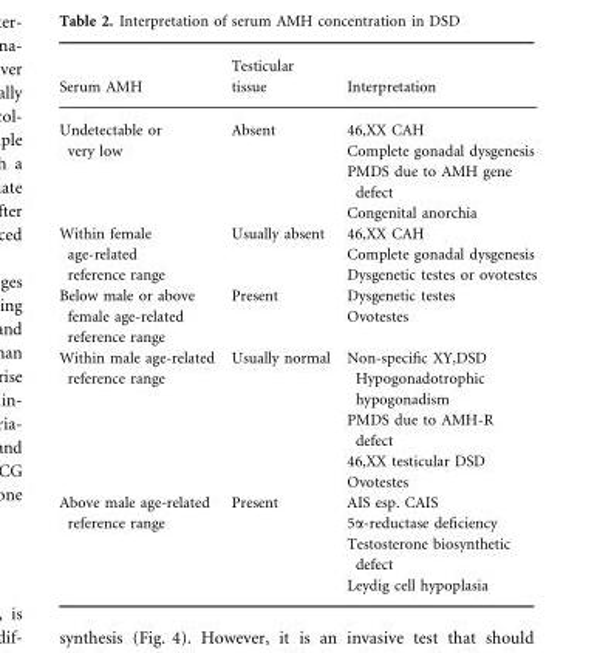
<table><thead><tr><td>Serum AMH</td><td>Testicular tissue</td><td>Interpretation</td></tr></thead><tbody><tr><td rowspan="4">Undetectable or very low</td><td rowspan="4">Absent</td><td>46,XX CAH</td></tr><tr><td>Complete gonadal dysgenesis</td></tr><tr><td>PMDS due to AMH gene defect</td></tr><tr><td>Congenital anorchia</td></tr><tr><td rowspan="3">Within female age-related reference range</td><td rowspan="3">Usually absent</td><td>46,XX CAH</td></tr><tr><td>Complete gonadal dysgenesis</td></tr><tr><td>Dysgenetic testes or ovotestes</td></tr><tr><td rowspan="2">Below male or above female age-related reference range</td><td rowspan="2">Present</td><td>Dysgenetic testes</td></tr><tr><td>Ovotestes</td></tr><tr><td rowspan="4">Within male age-related reference range</td><td rowspan="4">Usually normal</td><td>Non-specific XY,DSD Hypogonadotrophic hypogonadism</td></tr><tr><td>PMDS due to AMH-R defect</td></tr><tr><td>46,XX testicular DSD</td></tr><tr><td>Ovotestes</td></tr><tr><td rowspan="4">Above male age-related reference range</td><td rowspan="4">Present</td><td>AIS esp. CAIS</td></tr><tr><td>5α-reductase deficiency</td></tr><tr><td>Testosterone biosynthetic defect</td></tr><tr><td>Leydig cell hypoplasia</td></tr></tbody></table>